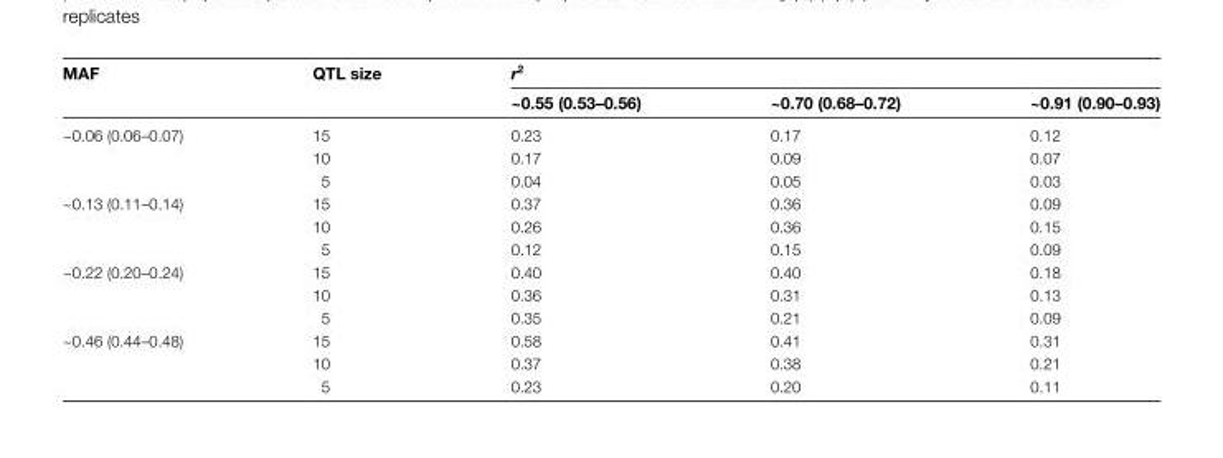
<table><thead><tr><td rowspan="2">MAF</td><td rowspan="2">QTL size</td><td colspan="3">r<sup>2</sup></td></tr><tr><td>~0.55 (0.53–0.56)</td><td>~0.70 (0.68–0.72)</td><td>~0.91 (0.90–0.93)</td></tr></thead><tbody><tr><td rowspan="3">~0.06 (0.06–0.07)</td><td>15</td><td>0.23</td><td>0.17</td><td>0.12</td></tr><tr><td>10</td><td>0.17</td><td>0.09</td><td>0.07</td></tr><tr><td>5</td><td>0.04</td><td>0.05</td><td>0.03</td></tr><tr><td rowspan="3">~0.13 (0.11–0.14)</td><td>15</td><td>0.37</td><td>0.36</td><td>0.09</td></tr><tr><td>10</td><td>0.26</td><td>0.36</td><td>0.15</td></tr><tr><td>5</td><td>0.12</td><td>0.15</td><td>0.09</td></tr><tr><td rowspan="3">~0.22 (0.20–0.24)</td><td>15</td><td>0.40</td><td>0.40</td><td>0.18</td></tr><tr><td>10</td><td>0.36</td><td>0.31</td><td>0.13</td></tr><tr><td>5</td><td>0.35</td><td>0.21</td><td>0.09</td></tr><tr><td rowspan="3">~0.46 (0.44–0.48)</td><td>15</td><td>0.58</td><td>0.41</td><td>0.31</td></tr><tr><td>10</td><td>0.37</td><td>0.38</td><td>0.21</td></tr><tr><td>5</td><td>0.23</td><td>0.20</td><td>0.11</td></tr></tbody></table>